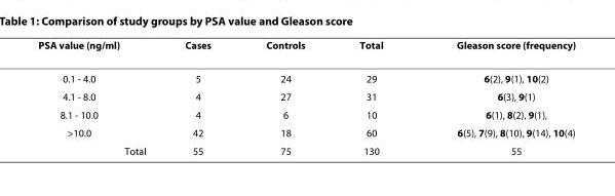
<table><thead><tr><td>PSA value (ng/ml)</td><td>Cases</td><td>Controls</td><td>Total</td><td>Gleason score (frequency)</td></tr></thead><tbody><tr><td>0.1 - 4.0</td><td>5</td><td>24</td><td>29</td><td>6(2), 9(1), 10(2)</td></tr><tr><td>4.1 - 8.0</td><td>4</td><td>27</td><td>31</td><td>6(3), 9(1)</td></tr><tr><td>8.1 - 10.0</td><td>4</td><td>6</td><td>10</td><td>6(1), 8(2), 9(1),</td></tr><tr><td>&gt;10.0</td><td>42</td><td>18</td><td>60</td><td>6(5), 7(9), 8(10), 9(14), 10(4)</td></tr><tr><td>Total</td><td>55</td><td>75</td><td>130</td><td>55</td></tr></tbody></table>